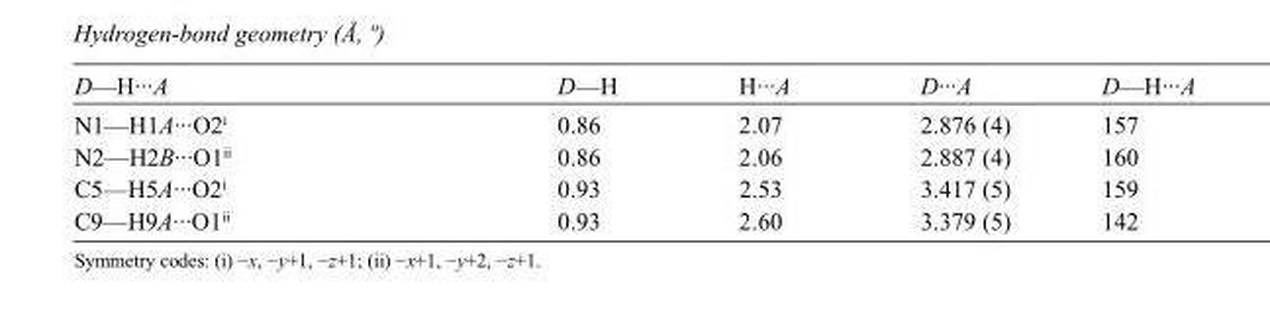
<table><tbody><tr><td>D—H···A</td><td>D—H</td><td>H···A</td><td>D···A</td><td>D—H···A</td></tr><tr><td>N1—H1A···O2<sup>i</sup></td><td>0.86</td><td>2.07</td><td>2.876 (4)</td><td>157</td></tr><tr><td>N2—H2B···O1<sup>ii</sup></td><td>0.86</td><td>2.06</td><td>2.887 (4)</td><td>160</td></tr><tr><td>C5—H5A···O2<sup>i</sup></td><td>0.93</td><td>2.53</td><td>3.417 (5)</td><td>159</td></tr><tr><td>C9—H9A···O1<sup>ii</sup></td><td>0.93</td><td>2.60</td><td>3.379 (5)</td><td>142</td></tr></tbody></table>